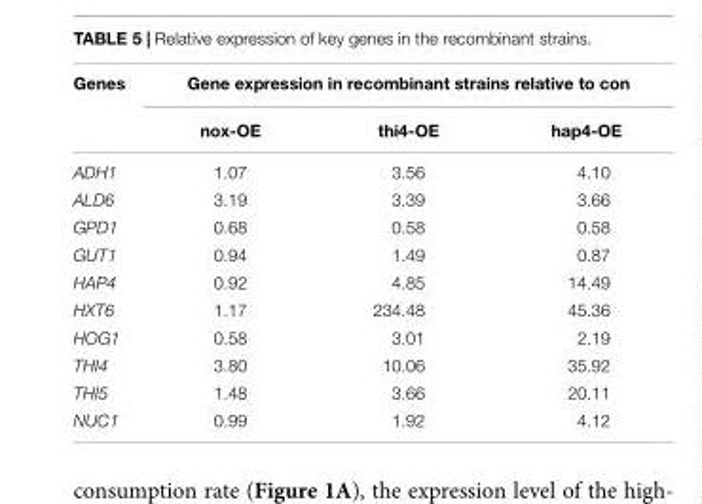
<table><thead><tr><td rowspan="2">Genes</td><td colspan="3">Gene expression in recombinant strains relative to con</td></tr><tr><td>nox-OE</td><td>thi4-OE</td><td>hap4-OE</td></tr></thead><tbody><tr><td>ADH1</td><td>1.07</td><td>3.56</td><td>4.10</td></tr><tr><td>ALD6</td><td>3.19</td><td>3.39</td><td>3.66</td></tr><tr><td>GPD1</td><td>0.68</td><td>0.58</td><td>0.58</td></tr><tr><td>GUT1</td><td>0.94</td><td>1.49</td><td>0.87</td></tr><tr><td>HAP4</td><td>0.92</td><td>4.85</td><td>14.49</td></tr><tr><td>HXT6</td><td>1.17</td><td>234.48</td><td>45.36</td></tr><tr><td>HOG1</td><td>0.58</td><td>3.01</td><td>2.19</td></tr><tr><td>THI4</td><td>3.80</td><td>10.06</td><td>35.92</td></tr><tr><td>THI5</td><td>1.48</td><td>3.66</td><td>20.11</td></tr><tr><td>NUC1</td><td>0.99</td><td>1.92</td><td>4.12</td></tr></tbody></table>